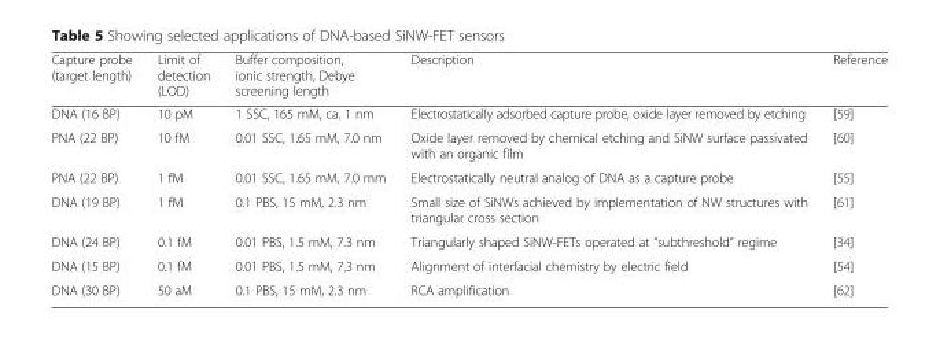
<table><thead><tr><td>Capture probe (target length)</td><td>Limit of detection (LOD)</td><td>Buffer composition, ionic strength, Debye screening length</td><td>Description</td><td>Reference</td></tr></thead><tbody><tr><td>DNA (16 BP)</td><td>10 pM</td><td>1 SSC, 165 mM, ca. 1 nm</td><td>Electrostatically adsorbed capture probe, oxide layer removed by etching</td><td>[59]</td></tr><tr><td>PNA (22 BP)</td><td>10 fM</td><td>0.01 SSC, 1.65 mM, 7.0 nm</td><td>Oxide layer removed by chemical etching and SiNW surface passivated with an organic film</td><td>[60]</td></tr><tr><td>PNA (22 BP)</td><td>1 fM</td><td>0.01 SSC, 1.65 mM, 7.0 mm</td><td>Electrostatically neutral analog of DNA as a capture probe</td><td>[55]</td></tr><tr><td>DNA (19 BP)</td><td>1 fM</td><td>0.1 PBS, 15 mM, 2.3 nm</td><td>Small size of SiNWs achieved by implementation of NW structures with triangular cross section</td><td>[61]</td></tr><tr><td>DNA (24 BP)</td><td>0.1 fM</td><td>0.01 PBS, 1.5 mM, 7.3 nm</td><td>Triangularly shaped SiNW-FETs operated at “subthreshold” regime</td><td>[34]</td></tr><tr><td>DNA (15 BP)</td><td>0.1 fM</td><td>0.01 PBS, 1.5 mM, 7.3 nm</td><td>Alignment of interfacial chemistry by electric field</td><td>[54]</td></tr><tr><td>DNA (30 BP)</td><td>50 aM</td><td>0.1 PBS, 15 mM, 2.3 nm</td><td>RCA amplification</td><td>[62]</td></tr></tbody></table>